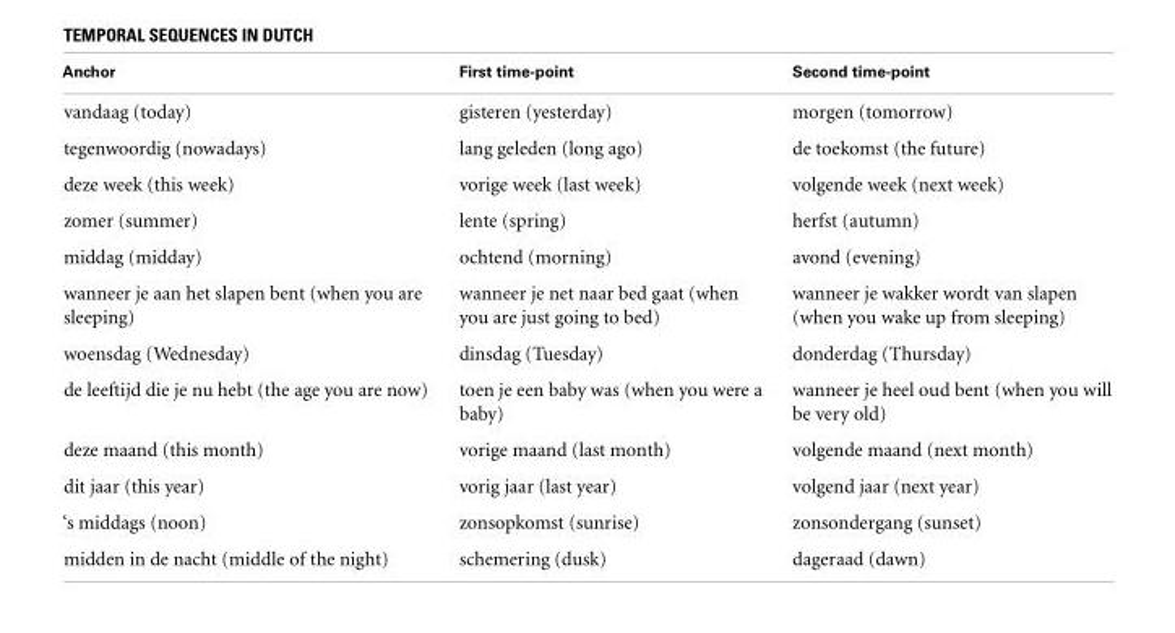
<table><tbody><tr><td>Anchor</td><td>First time-point</td><td>Second time-point</td></tr><tr><td>vandaag (today)</td><td>gisteren (yesterday)</td><td>morgen (tomorrow)</td></tr><tr><td>tegenwoordig (nowadays)</td><td>lang geleden (long ago)</td><td>de toekomst (the future)</td></tr><tr><td>deze week (this week)</td><td>vorige week (last week)</td><td>volgende week (next week)</td></tr><tr><td>zomer (summer)</td><td>lente (spring)</td><td>herfst (autumn)</td></tr><tr><td>middag (midday)</td><td>ochtend (morning)</td><td>avond (evening)</td></tr><tr><td>wanneer je aan het slapen bent (when you are sleeping)</td><td>wanneer je net naar bed gaat (when you are just going to bed)</td><td>wanneer je wakker wordt van slapen (when you wake up from sleeping)</td></tr><tr><td>woensdag (Wednesday)</td><td>dinsdag (Tuesday)</td><td>donderdag (Thursday)</td></tr><tr><td>de leeftijd die je nu hebt (the age you are now)</td><td>toen je een baby was (when you were a baby)</td><td>wanneer je heel oud bent (when you will be very old)</td></tr><tr><td>deze maand (this month)</td><td>vorige maand (last month)</td><td>volgende maand (next month)</td></tr><tr><td>dit jaar (this year)</td><td>vorig jaar (last year)</td><td>volgend jaar (next year)</td></tr><tr><td>‘s middags (noon)</td><td>zonsopkomst (sunrise)</td><td>zonsondergang (sunset)</td></tr><tr><td>midden in de nacht (middle of the night)</td><td>schemering (dusk)</td><td>dageraad (dawn)</td></tr></tbody></table>